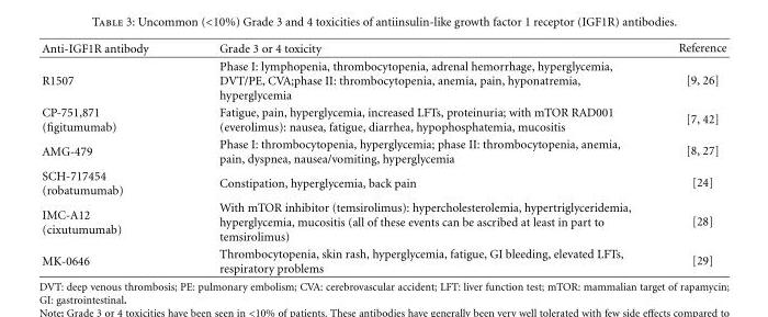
<table><thead><tr><td>Anti-IGF1R antibody</td><td>Grade 3 or 4 toxicity</td><td>Reference</td></tr></thead><tbody><tr><td>R1507</td><td>Phase I: lymphopenia, thrombocytopenia, adrenal hemorrhage, hyperglycemia, DVT/PE, CVA;phase II: thrombocytopenia, anemia, pain, hyponatremia, hyperglycemia</td><td>[9, 26]</td></tr><tr><td>CP-751,871 (figitumumab)</td><td>Fatigue, pain, hyperglycemia, increased LFTs, proteinuria; with mTOR RAD001 (everolimus): nausea, fatigue, diarrhea, hypophosphatemia, mucositis</td><td>[7, 42]</td></tr><tr><td>AMG-479</td><td>Phase I: thrombocytopenia, hyperglycemia; phase II: thrombocytopenia, anemia, pain, dyspnea, nausea/vomiting, hyperglycemia</td><td>[8, 27]</td></tr><tr><td>SCH-717454 (robatumumab)</td><td>Constipation, hyperglycemia, back pain</td><td>[24]</td></tr><tr><td>IMC-A12 (cixutumumab)</td><td>With mTOR inhibitor (temsirolimus): hypercholesterolemia, hypertriglyceridemia, hyperglycemia, mucositis (all of these events can be ascribed at least in part to temsirolimus)</td><td>[28]</td></tr><tr><td>MK-0646</td><td>Thrombocytopenia, skin rash, hyperglycemia, fatigue, GI bleeding, elevated LFTs, respiratory problems</td><td>[29]</td></tr></tbody></table>